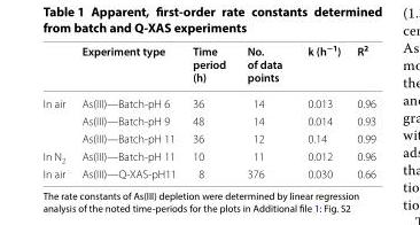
<table><thead><tr><td></td><td>Experiment type</td><td>Time period (h)</td><td>No. of data points</td><td>k (h<sup>−1</sup>)</td><td>R<sup>2</sup></td></tr></thead><tbody><tr><td rowspan="3">In air</td><td>As(III)—Batch-pH 6</td><td>36</td><td>14</td><td>0.013</td><td>0.96</td></tr><tr><td>As(III)—Batch-pH 9</td><td>48</td><td>14</td><td>0.014</td><td>0.93</td></tr><tr><td>As(III)—Batch-pH 11</td><td>36</td><td>12</td><td>0.14</td><td>0.99</td></tr><tr><td>In N<sub>2</sub></td><td>As(III)—Batch-pH 11</td><td>10</td><td>11</td><td>0.012</td><td>0.96</td></tr><tr><td>In air</td><td>As(III)—Q-XAS-pH11</td><td>8</td><td>376</td><td>0.030</td><td>0.66</td></tr></tbody></table>